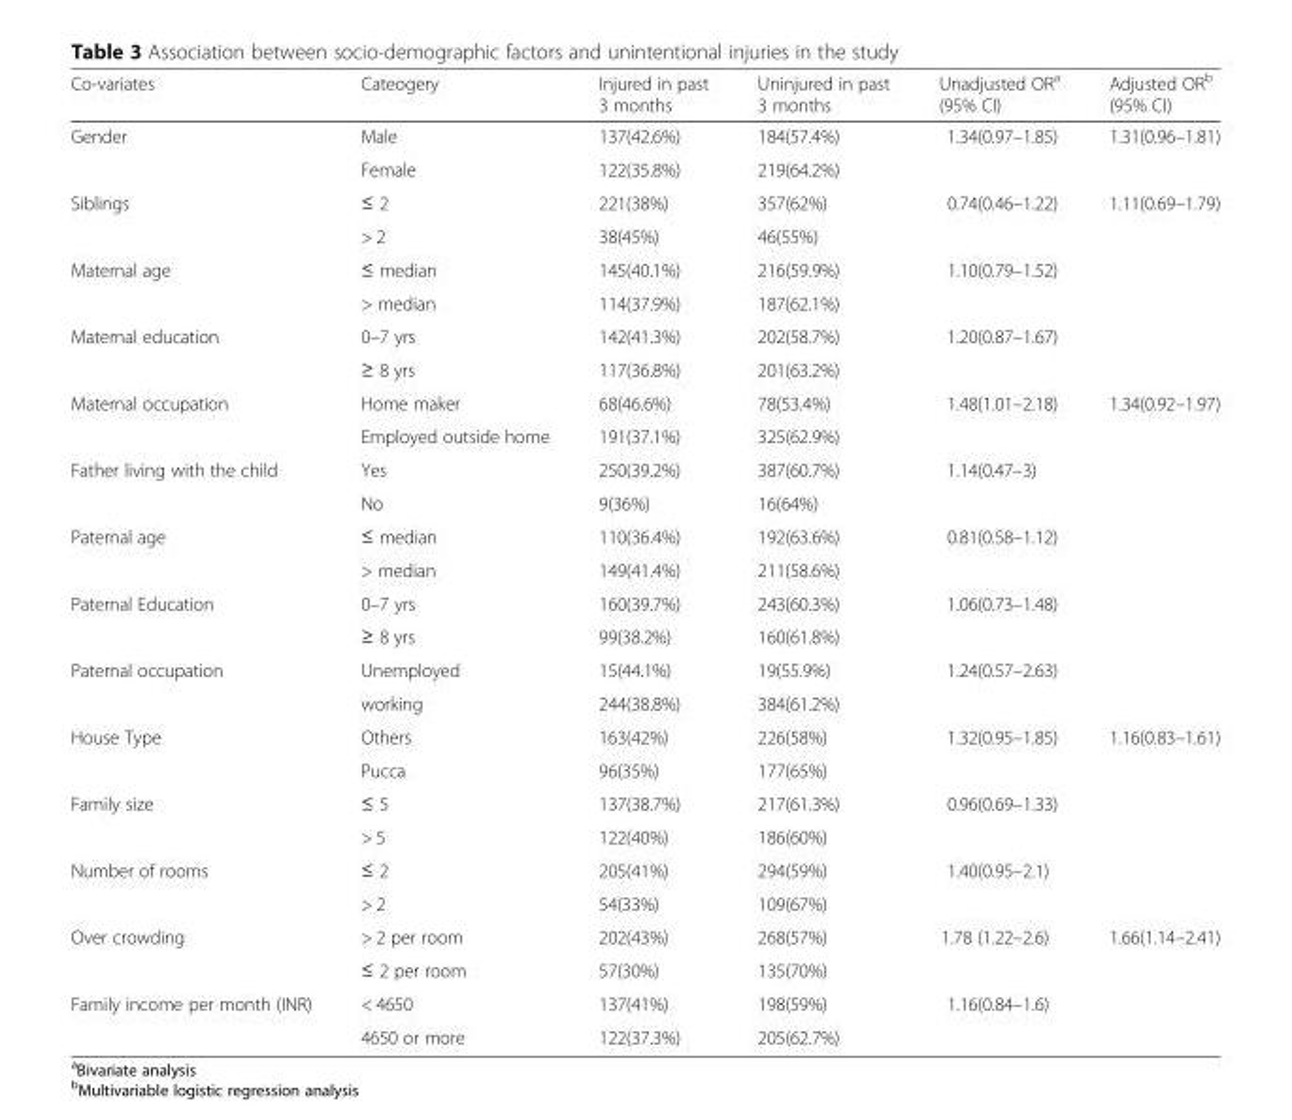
<table><thead><tr><td>Co-variates</td><td>Cateogery</td><td>Injured in past 3 months</td><td>Uninjured in past 3 months</td><td>Unadjusted OR<sup>a</sup> (95% CI)</td><td>Adjusted OR<sup>b</sup> (95% CI)</td></tr></thead><tbody><tr><td rowspan="2">Gender</td><td>Male</td><td>137(42.6%)</td><td>184(57.4%)</td><td>1.34(0.97–1.85)</td><td>1.31(0.96–1.81)</td></tr><tr><td>Female</td><td>122(35.8%)</td><td>219(64.2%)</td><td></td><td></td></tr><tr><td rowspan="2">Siblings</td><td>≤ 2</td><td>221(38%)</td><td>357(62%)</td><td>0.74(0.46–1.22)</td><td>1.11(0.69–1.79)</td></tr><tr><td>&gt; 2</td><td>38(45%)</td><td>46(55%)</td><td></td><td></td></tr><tr><td rowspan="2">Maternal age</td><td>≤ median</td><td>145(40.1%)</td><td>216(59.9%)</td><td>1.10(0.79–1.52)</td><td></td></tr><tr><td>&gt; median</td><td>114(37.9%)</td><td>187(62.1%)</td><td></td><td></td></tr><tr><td rowspan="2">Maternal education</td><td>0–7 yrs</td><td>142(41.3%)</td><td>202(58.7%)</td><td>1.20(0.87–1.67)</td><td></td></tr><tr><td>≥ 8 yrs</td><td>117(36.8%)</td><td>201(63.2%)</td><td></td><td></td></tr><tr><td rowspan="2">Maternal occupation</td><td>Home maker</td><td>68(46.6%)</td><td>78(53.4%)</td><td>1.48(1.01–2.18)</td><td>1.34(0.92–1.97)</td></tr><tr><td>Employed outside home</td><td>191(37.1%)</td><td>325(62.9%)</td><td></td><td></td></tr><tr><td rowspan="2">Father living with the child</td><td>Yes</td><td>250(39.2%)</td><td>387(60.7%)</td><td>1.14(0.47–3)</td><td></td></tr><tr><td>No</td><td>9(36%)</td><td>16(64%)</td><td></td><td></td></tr><tr><td rowspan="2">Paternal age</td><td>≤ median</td><td>110(36.4%)</td><td>192(63.6%)</td><td>0.81(0.58–1.12)</td><td></td></tr><tr><td>&gt; median</td><td>149(41.4%)</td><td>211(58.6%)</td><td></td><td></td></tr><tr><td rowspan="2">Paternal Education</td><td>0–7 yrs</td><td>160(39.7%)</td><td>243(60.3%)</td><td>1.06(0.73–1.48)</td><td></td></tr><tr><td>≥ 8 yrs</td><td>99(38.2%)</td><td>160(61.8%)</td><td></td><td></td></tr><tr><td rowspan="2">Paternal occupation</td><td>Unemployed</td><td>15(44.1%)</td><td>19(55.9%)</td><td>1.24(0.57–2.63)</td><td></td></tr><tr><td>working</td><td>244(38.8%)</td><td>384(61.2%)</td><td></td><td></td></tr><tr><td rowspan="2">House Type</td><td>Others</td><td>163(42%)</td><td>226(58%)</td><td>1.32(0.95–1.85)</td><td>1.16(0.83–1.61)</td></tr><tr><td>Pucca</td><td>96(35%)</td><td>177(65%)</td><td></td><td></td></tr><tr><td rowspan="2">Family size</td><td>≤ 5</td><td>137(38.7%)</td><td>217(61.3%)</td><td>0.96(0.69–1.33)</td><td></td></tr><tr><td>&gt; 5</td><td>122(40%)</td><td>186(60%)</td><td></td><td></td></tr><tr><td rowspan="2">Number of rooms</td><td>≤ 2</td><td>205(41%)</td><td>294(59%)</td><td>1.40(0.95–2.1)</td><td></td></tr><tr><td>&gt; 2</td><td>54(33%)</td><td>109(67%)</td><td></td><td></td></tr><tr><td rowspan="2">Over crowding</td><td>&gt; 2 per room</td><td>202(43%)</td><td>268(57%)</td><td>1.78 (1.22–2.6)</td><td>1.66(1.14–2.41)</td></tr><tr><td>≤ 2 per room</td><td>57(30%)</td><td>135(70%)</td><td></td><td></td></tr><tr><td rowspan="2">Family income per month (INR)</td><td>&lt; 4650</td><td>137(41%)</td><td>198(59%)</td><td>1.16(0.84–1.6)</td><td></td></tr><tr><td>4650 or more</td><td>122(37.3%)</td><td>205(62.7%)</td><td></td><td></td></tr></tbody></table>